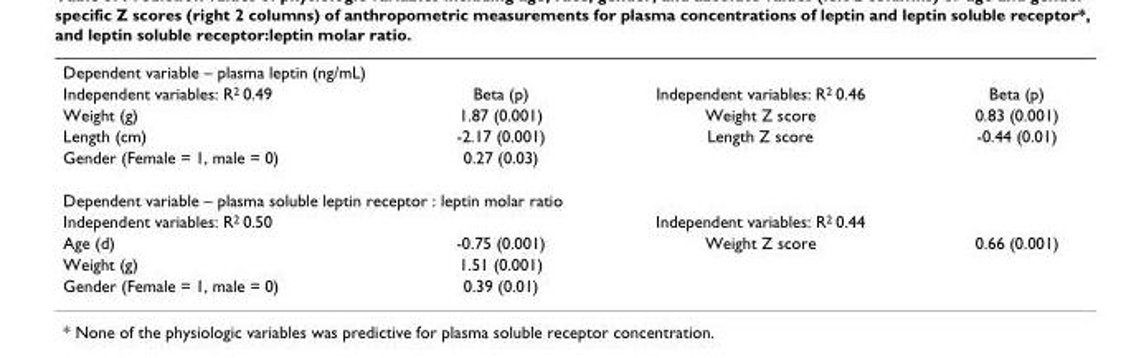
<table><tbody><tr><td colspan="4">Dependent variable – plasma leptin (ng/mL)</td></tr><tr><td>Independent variables: R<sup>2</sup> 0.49</td><td>Beta (p)</td><td>Independent variables: R<sup>2</sup> 0.46</td><td>Beta (p)</td></tr><tr><td>Weight (g)</td><td>1.87 (0.001)</td><td>Weight Z score</td><td>0.83 (0.001)</td></tr><tr><td>Length (cm)</td><td>-2.17 (0.001)</td><td>Length Z score</td><td>-0.44 (0.01)</td></tr><tr><td>Gender (Female = 1, male = 0)</td><td>0.27 (0.03)</td><td></td><td></td></tr><tr><td colspan="4">Dependent variable – plasma soluble leptin receptor : leptin molar ratio</td></tr><tr><td>Independent variables: R<sup>2</sup> 0.50</td><td></td><td>Independent variables: R<sup>2</sup> 0.44</td><td></td></tr><tr><td>Age (d)</td><td>-0.75 (0.001)</td><td>Weight Z score</td><td>0.66 (0.001)</td></tr><tr><td>Weight (g)</td><td>1.51 (0.001)</td><td></td><td></td></tr><tr><td>Gender (Female = 1, male = 0)</td><td>0.39 (0.01)</td><td></td><td></td></tr></tbody></table>